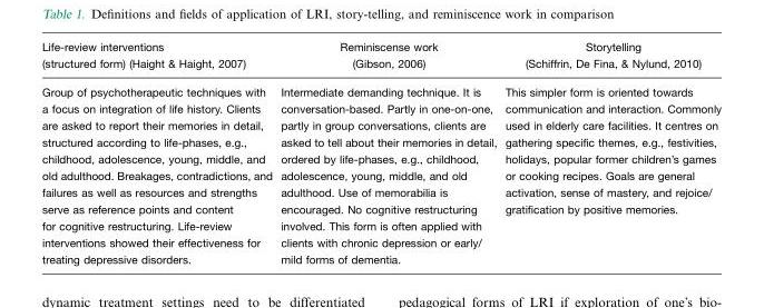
<table><thead><tr><td>Life-review interventions (structured form) (Haight &amp; Haight, 2007)</td><td>Reminiscense work (Gibson, 2006)</td><td>Storytelling (Schiffrin, De Fina, &amp; Nylund, 2010)</td></tr></thead><tbody><tr><td>Group of psychotherapeutic techniques with a focus on integration of life history. Clients are asked to report their memories in detail, structured according to life-phases, e.g., childhood, adolescence, young, middle, and old adulthood. Breakages, contradictions, and failures as well as resources and strengths serve as reference points and content for cognitive restructuring. Life-review interventions showed their effectiveness for treating depressive disorders.</td><td>Intermediate demanding technique. It is conversation-based. Partly in one-on-one, partly in group conversations, clients are asked to tell about their memories in detail, ordered by life-phases, e.g., childhood, adolescence, young, middle, and old adulthood. Use of memorabilia is encouraged. No cognitive restructuring involved. This form is often applied with clients with chronic depression or early/ mild forms of dementia.</td><td>This simpler form is oriented towards communication and interaction. Commonly used in elderly care facilities. It centres on gathering specific themes, e.g., festivities, holidays, popular former children’s games or cooking recipes. Goals are general activation, sense of mastery, and rejoice/ gratification by positive memories.</td></tr></tbody></table>